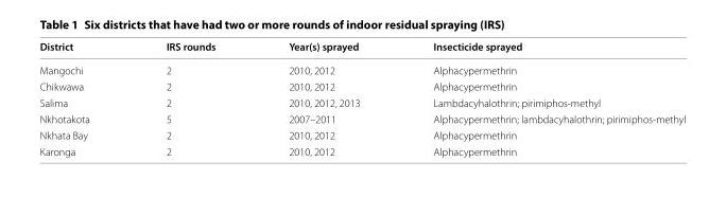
<table><thead><tr><td>District</td><td>IRS rounds</td><td>Year(s) sprayed</td><td>Insecticide sprayed</td></tr></thead><tbody><tr><td>Mangochi</td><td>2</td><td>2010, 2012</td><td>Alphacypermethrin</td></tr><tr><td>Chikwawa</td><td>2</td><td>2010, 2012</td><td>Alphacypermethrin</td></tr><tr><td>Salima</td><td>2</td><td>2010, 2012, 2013</td><td>Lambdacyhalothrin; pirimiphos‑methyl</td></tr><tr><td>Nkhotakota</td><td>5</td><td>2007–2011</td><td>Alphacypermethrin; lambdacyhalothrin; pirimiphos‑methyl</td></tr><tr><td>Nkhata Bay</td><td>2</td><td>2010, 2012</td><td>Alphacypermethrin</td></tr><tr><td>Karonga</td><td>2</td><td>2010, 2012</td><td>Alphacypermethrin</td></tr></tbody></table>